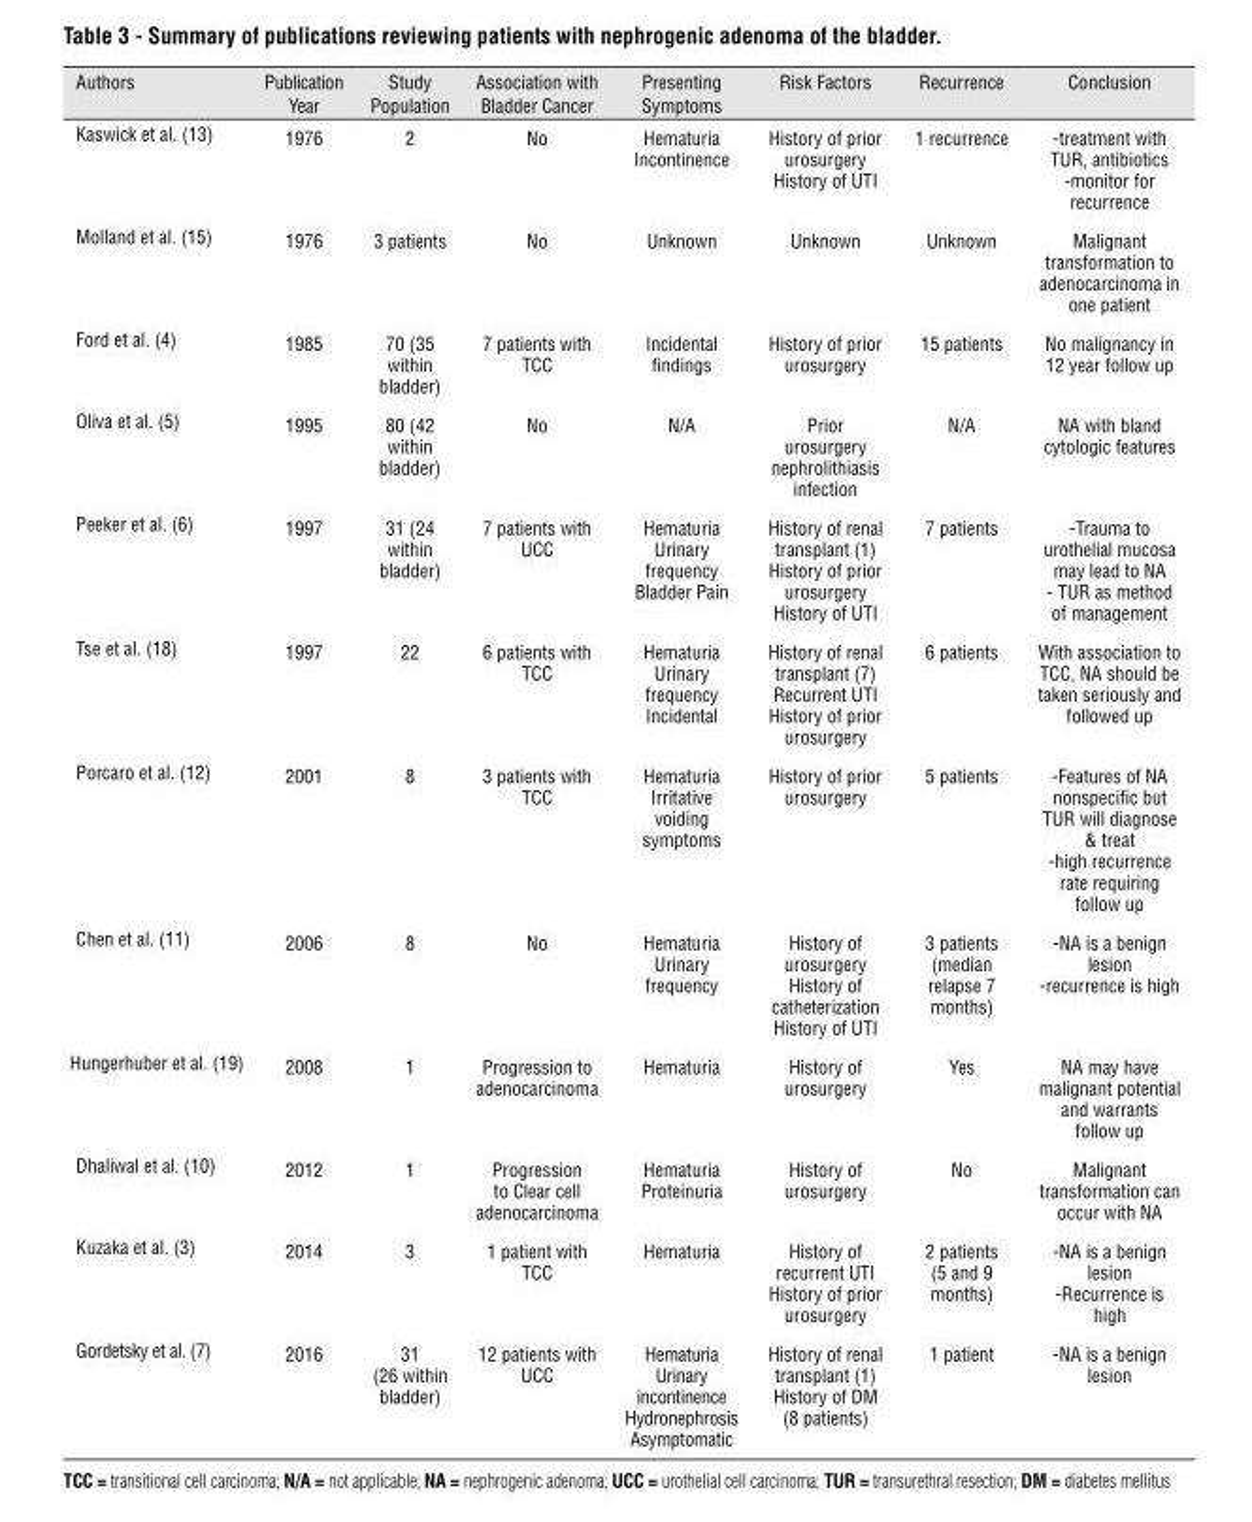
<table><thead><tr><td>Authors</td><td>Publication Year</td><td>Study Population</td><td>Association with Bladder Cancer</td><td>Presenting Symptoms</td><td>Risk Factors</td><td>Recurrence</td><td>Conclusion</td></tr></thead><tbody><tr><td>Kaswick et al. (13)</td><td>1976</td><td>2</td><td>No</td><td>Hematuria Incontinence</td><td>History of prior urosurgery History of UTI</td><td>1 recurrence</td><td>-treatment with TUR, antibiotics -monitor for recurrence</td></tr><tr><td>Molland et al. (15)</td><td>1976</td><td>3 patients</td><td>No</td><td>Unknown</td><td>Unknown</td><td>Unknown</td><td>Malignant transformation to adenocarcinoma in one patient</td></tr><tr><td>Ford et al. (4)</td><td>1985</td><td>70 (35 within bladder)</td><td>7 patients with TCC</td><td>Incidental findings</td><td>History of prior urosurgery</td><td>15 patients</td><td>No malignancy in 12 year follow up</td></tr><tr><td>Oliva et al. (5)</td><td>1995</td><td>80 (42 within bladder)</td><td>No</td><td>N/A</td><td>Prior urosurgery nephrolithiasis infection</td><td>N/A</td><td>NA with bland cytologic features</td></tr><tr><td>Peeker et al. (6)</td><td>1997</td><td>31 (24 within bladder)</td><td>7 patients with UCC</td><td>Hematuria Urinary frequency Bladder Pain</td><td>History of renal transplant (1) History of prior urosurgery History of UTI</td><td>7 patients</td><td>-Trauma to urothelial mucosa may lead to NA - TUR as method of management</td></tr><tr><td>Tse et al. (18)</td><td>1997</td><td>22</td><td>6 patients with TCC</td><td>Hematuria Urinary frequency Incidental</td><td>History of renal transplant (7) Recurrent UTI History of prior urosurgery</td><td>6 patients</td><td>With association to TCC, NA should be taken seriously and followed up</td></tr><tr><td>Porcaro et al. (12)</td><td>2001</td><td>8</td><td>3 patients with TCC</td><td>Hematuria Irritative voiding symptoms</td><td>History of prior urosurgery</td><td>5 patients</td><td>-Features of NA nonspecific but TUR will diagnose &amp; treat -high recurrence rate requiring follow up</td></tr><tr><td>Chen et al. (11)</td><td>2006</td><td>8</td><td>No</td><td>Hematuria Urinary frequency</td><td>History of urosurgery History of catheterization History of UTI</td><td>3 patients (median relapse 7 months)</td><td>-NA is a benign lesion -recurrence is high</td></tr><tr><td>Hungerhuber et al. (19)</td><td>2008</td><td>1</td><td>Progression to adenocarcinoma</td><td>Hematuria</td><td>History of urosurgery</td><td>Yes</td><td>NA may have malignant potential and warrants follow up</td></tr><tr><td>Dhaliwal et al. (10)</td><td>2012</td><td>1</td><td>Progression to Clear cell adenocarcinoma</td><td>Hematuria Proteinuria</td><td>History of urosurgery</td><td>No</td><td>Malignant transformation can occur with NA</td></tr><tr><td>Kuzaka et al. (3)</td><td>2014</td><td>3</td><td>1 patient with TCC</td><td>Hematuria</td><td>History of recurrent UTI History of prior urosurgery</td><td>2 patients (5 and 9 months)</td><td>-NA is a benign lesion -Recurrence is high</td></tr><tr><td>Gordetsky et al. (7)</td><td>2016</td><td>31 (26 within bladder)</td><td>12 patients with UCC</td><td>Hematuria Urinary incontinence Hydronephrosis Asymptomatic</td><td>History of renal transplant (1) History of DM (8 patients)</td><td>1 patient</td><td>-NA is a benign lesion</td></tr></tbody></table>